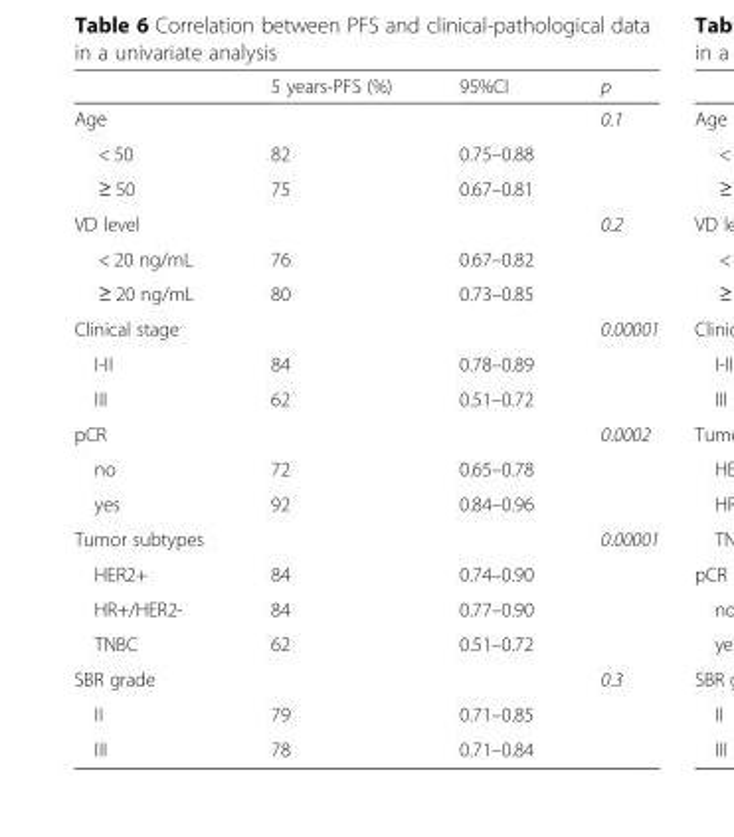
<table><thead><tr><td></td><td>5 years-PFS (%)</td><td>95%CI</td><td>p</td></tr></thead><tbody><tr><td>Age</td><td></td><td></td><td>0.1</td></tr><tr><td>&lt; 50</td><td>82</td><td>0.75–0.88</td><td></td></tr><tr><td>≥ 50</td><td>75</td><td>0.67–0.81</td><td></td></tr><tr><td>VD level</td><td></td><td></td><td>0.2</td></tr><tr><td>&lt; 20 ng/mL</td><td>76</td><td>0.67–0.82</td><td></td></tr><tr><td>≥ 20 ng/mL</td><td>80</td><td>0.73–0.85</td><td></td></tr><tr><td>Clinical stage</td><td></td><td></td><td>0.00001</td></tr><tr><td>I-II</td><td>84</td><td>0.78–0.89</td><td></td></tr><tr><td>III</td><td>62</td><td>0.51–0.72</td><td></td></tr><tr><td>pCR</td><td></td><td></td><td>0.0002</td></tr><tr><td>no</td><td>72</td><td>0.65–0.78</td><td></td></tr><tr><td>yes</td><td>92</td><td>0.84–0.96</td><td></td></tr><tr><td>Tumor subtypes</td><td></td><td></td><td>0.00001</td></tr><tr><td>HER2+</td><td>84</td><td>0.74–0.90</td><td></td></tr><tr><td>HR+/HER2-</td><td>84</td><td>0.77–0.90</td><td></td></tr><tr><td>TNBC</td><td>62</td><td>0.51–0.72</td><td></td></tr><tr><td>SBR grade</td><td></td><td></td><td>0.3</td></tr><tr><td>II</td><td>79</td><td>0.71–0.85</td><td></td></tr><tr><td>III</td><td>78</td><td>0.71–0.84</td><td></td></tr></tbody></table>